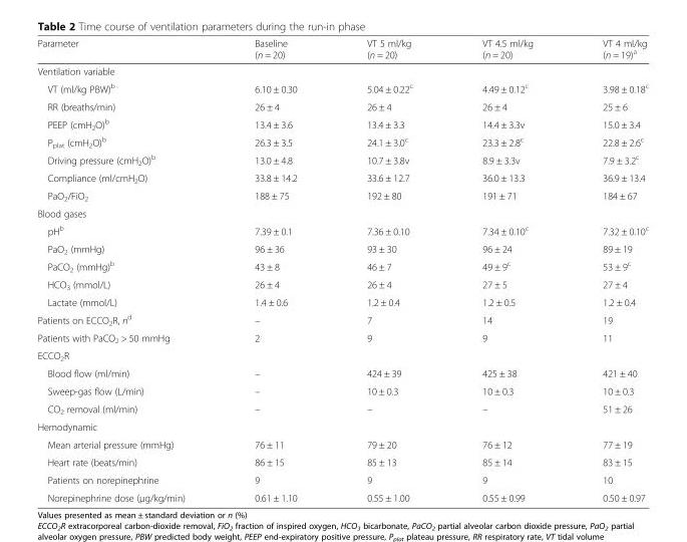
<table><thead><tr><td>Parameter</td><td>Baseline (n = 20)</td><td>VT 5 ml/kg (n = 20)</td><td>VT 4.5 ml/kg (n = 20)</td><td>VT 4 ml/kg (n = 19)<sup>a</sup></td></tr></thead><tbody><tr><td colspan="5">Ventilation variable</td></tr><tr><td>VT (ml/kg PBW)<sup>b</sup></td><td>6.10 ± 0.30</td><td>5.04 ± 0.22<sup>c</sup></td><td>4.49 ± 0.12<sup>c</sup></td><td>3.98 ± 0.18<sup>c</sup></td></tr><tr><td>RR (breaths/min)</td><td>26 ± 4</td><td>26 ± 4</td><td>26 ± 4</td><td>25 ± 6</td></tr><tr><td>PEEP (cmH<sub>2</sub>O)<sup>b</sup></td><td>13.4 ± 3.6</td><td>13.4 ± 3.3</td><td>14.4 ± 3.3v</td><td>15.0 ± 3.4</td></tr><tr><td>P<sub>plat</sub> (cmH<sub>2</sub>O)<sup>b</sup></td><td>26.3 ± 3.5</td><td>24.1 ± 3.0<sup>c</sup></td><td>23.3 ± 2.8<sup>c</sup></td><td>22.8 ± 2.6<sup>c</sup></td></tr><tr><td>Driving pressure (cmH<sub>2</sub>O)<sup>b</sup></td><td>13.0 ± 4.8</td><td>10.7 ± 3.8v</td><td>8.9 ± 3.3v</td><td>7.9 ± 3.2<sup>c</sup></td></tr><tr><td>Compliance (ml/cmH<sub>2</sub>O)</td><td>33.8 ± 14.2</td><td>33.6 ± 12.7</td><td>36.0 ± 13.3</td><td>36.9 ± 13.4</td></tr><tr><td>PaO<sub>2</sub>/FiO<sub>2</sub></td><td>188 ± 75</td><td>192 ± 80</td><td>191 ± 71</td><td>184 ± 67</td></tr><tr><td colspan="5">Blood gases</td></tr><tr><td>pH<sup>b</sup></td><td>7.39 ± 0.1</td><td>7.36 ± 0.10</td><td>7.34 ± 0.10<sup>c</sup></td><td>7.32 ± 0.10<sup>c</sup></td></tr><tr><td>PaO<sub>2</sub> (mmHg)</td><td>96 ± 36</td><td>93 ± 30</td><td>96 ± 24</td><td>89 ± 19</td></tr><tr><td>PaCO<sub>2</sub> (mmHg)<sup>b</sup></td><td>43 ± 8</td><td>46 ± 7</td><td>49 ± 9<sup>c</sup></td><td>53 ± 9<sup>c</sup></td></tr><tr><td>HCO<sub>3</sub> (mmol/L)</td><td>26 ± 4</td><td>26 ± 4</td><td>27 ± 5</td><td>27 ± 4</td></tr><tr><td>Lactate (mmol/L)</td><td>1.4 ± 0.6</td><td>1.2 ± 0.4</td><td>1.2 ± 0.5</td><td>1.2 ± 0.4</td></tr><tr><td>Patients on ECCO<sub>2</sub>R, n<sup>d</sup></td><td>–</td><td>7</td><td>14</td><td>19</td></tr><tr><td>Patients with PaCO<sub>2</sub> &gt; 50 mmHg</td><td>2</td><td>9</td><td>9</td><td>11</td></tr><tr><td colspan="5">ECCO<sub>2</sub>R</td></tr><tr><td>Blood flow (ml/min)</td><td>–</td><td>424 ± 39</td><td>425 ± 38</td><td>421 ± 40</td></tr><tr><td>Sweep-gas flow (L/min)</td><td>–</td><td>10 ± 0.3</td><td>10 ± 0.3</td><td>10 ± 0.3</td></tr><tr><td>CO<sub>2</sub> removal (ml/min)</td><td>–</td><td>–</td><td>–</td><td>51 ± 26</td></tr><tr><td colspan="5">Hemodynamic</td></tr><tr><td>Mean arterial pressure (mmHg)</td><td>76 ± 11</td><td>79 ± 20</td><td>76 ± 12</td><td>77 ± 19</td></tr><tr><td>Heart rate (beats/min)</td><td>86 ± 15</td><td>85 ± 13</td><td>85 ± 14</td><td>83 ± 15</td></tr><tr><td>Patients on norepinephrine</td><td>9</td><td>9</td><td>9</td><td>10</td></tr><tr><td>Norepinephrine dose (μg/kg/min)</td><td>0.61 ± 1.10</td><td>0.55 ± 1.00</td><td>0.55 ± 0.99</td><td>0.50 ± 0.97</td></tr></tbody></table>